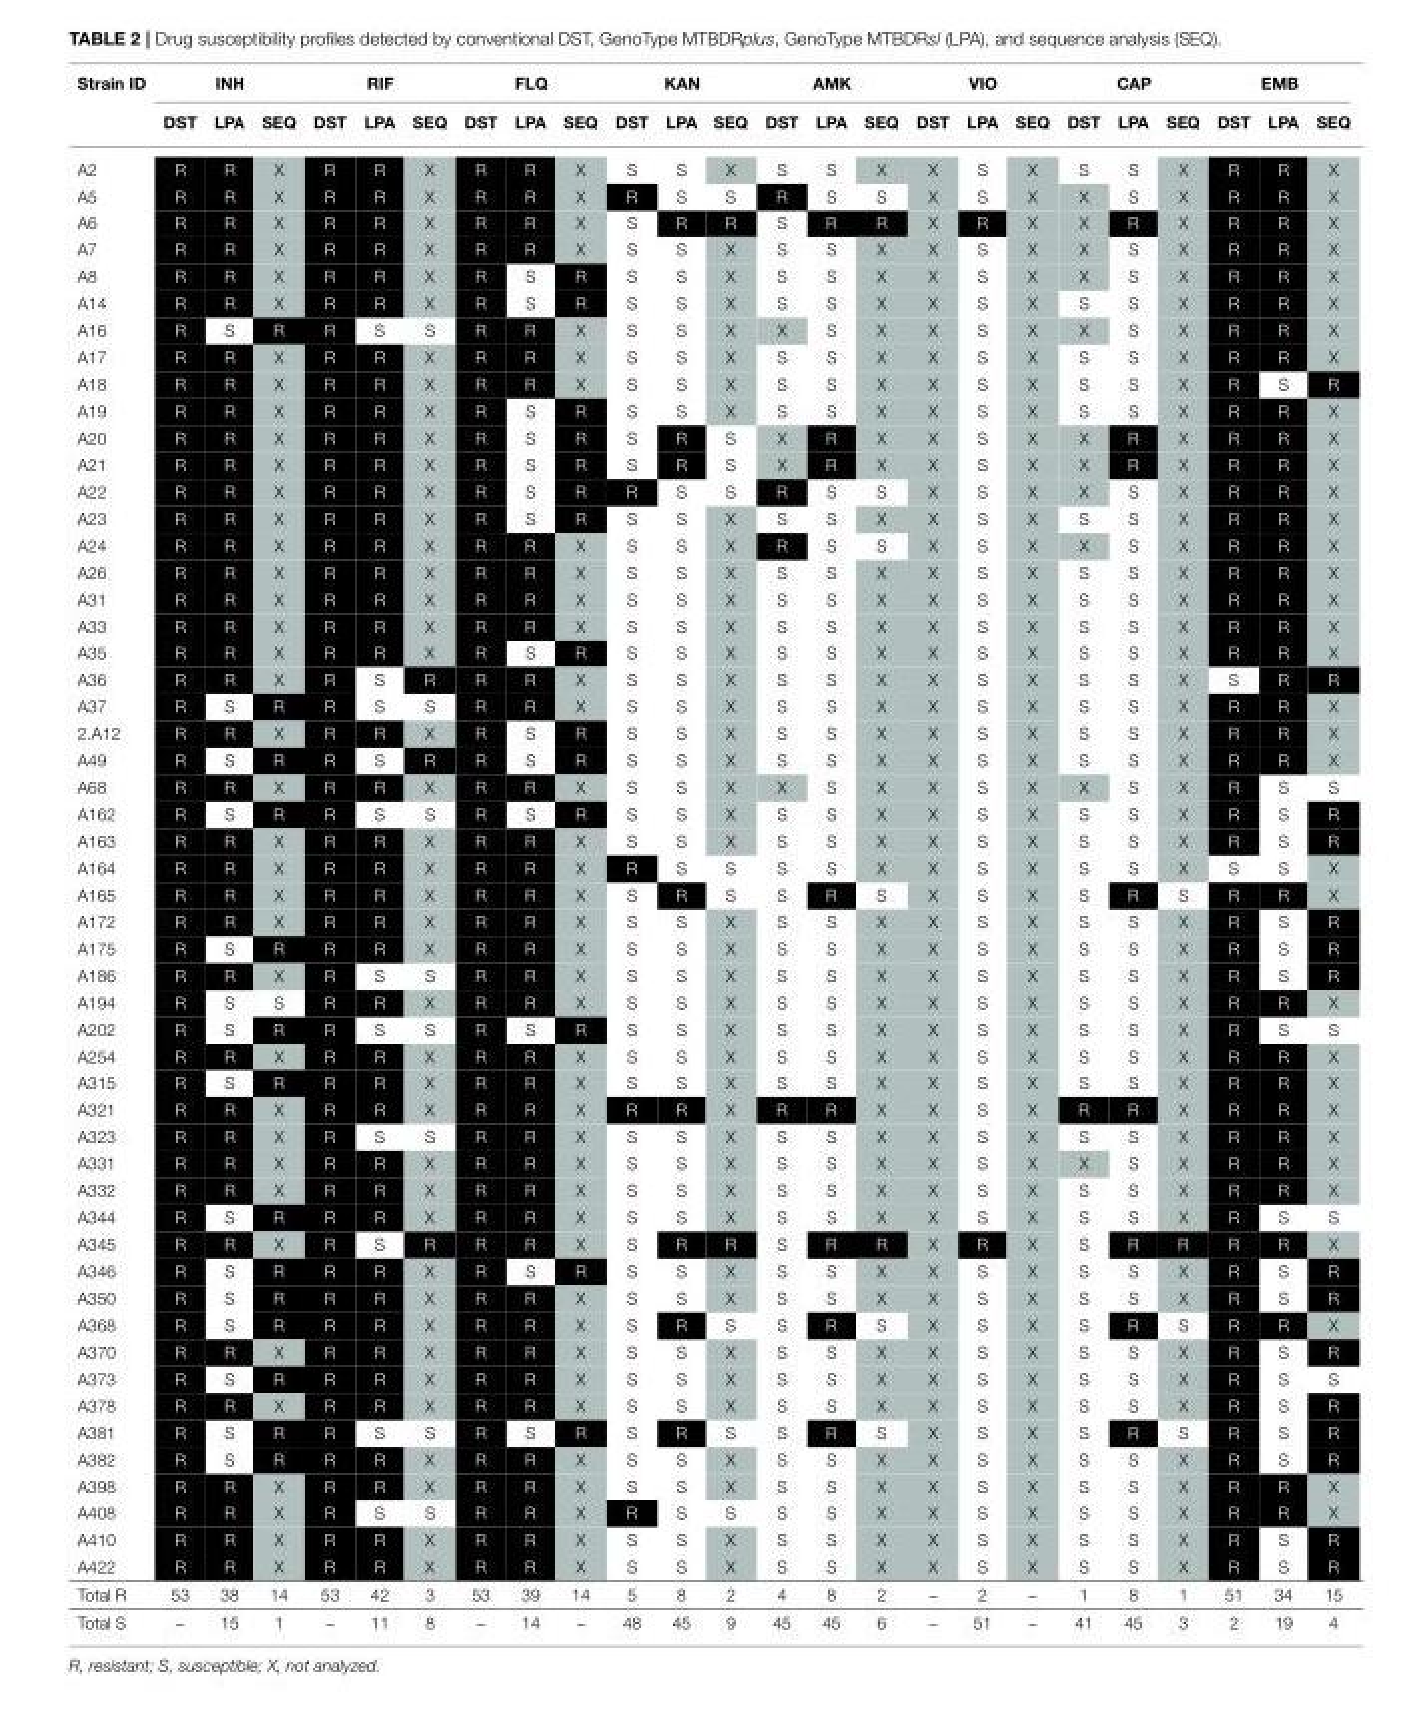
<table><thead><tr><td rowspan="2">Strain ID</td><td colspan="3">INH</td><td colspan="3">RIF</td><td colspan="3">FLQ</td><td colspan="3">KAN</td><td colspan="3">AMK</td><td colspan="3">VIO</td><td colspan="3">CAP</td><td colspan="3">EMB</td></tr><tr><td>DST</td><td>LPA</td><td>SEQ</td><td>DST</td><td>LPA</td><td>SEQ</td><td>DST</td><td>LPA</td><td>SEQ</td><td>DST</td><td>LPA</td><td>SEQ</td><td>DST</td><td>LPA</td><td>SEQ</td><td>DST</td><td>LPA</td><td>SEQ</td><td>DST</td><td>LPA</td><td>SEQ</td><td>DST</td><td>LPA</td><td>SEQ</td></tr></thead><tbody><tr><td>A2</td><td>R</td><td>R</td><td>X</td><td>R</td><td>R</td><td>X</td><td>R</td><td>R</td><td>X</td><td>S</td><td>S</td><td>X</td><td>S</td><td>S</td><td>X</td><td>X</td><td>S</td><td>X</td><td>S</td><td>S</td><td>X</td><td>R</td><td>R</td><td>X</td></tr><tr><td>A5</td><td>R</td><td>R</td><td>X</td><td>R</td><td>R</td><td>X</td><td>R</td><td>R</td><td>X</td><td>R</td><td>S</td><td>S</td><td>R</td><td>S</td><td>S</td><td>X</td><td>S</td><td>X</td><td>X</td><td>S</td><td>X</td><td>R</td><td>R</td><td>X</td></tr><tr><td>A6</td><td>R</td><td>R</td><td>X</td><td>R</td><td>R</td><td>X</td><td>R</td><td>R</td><td>X</td><td>S</td><td>R</td><td>R</td><td>S</td><td>R</td><td>R</td><td>X</td><td>R</td><td>X</td><td>X</td><td>R</td><td>X</td><td>R</td><td>R</td><td>X</td></tr><tr><td>A7</td><td>R</td><td>R</td><td>X</td><td>R</td><td>R</td><td>X</td><td>R</td><td>R</td><td>X</td><td>S</td><td>S</td><td>X</td><td>S</td><td>S</td><td>X</td><td>X</td><td>S</td><td>X</td><td>X</td><td>S</td><td>X</td><td>R</td><td>R</td><td>X</td></tr><tr><td>A8</td><td>R</td><td>R</td><td>X</td><td>R</td><td>R</td><td>X</td><td>R</td><td>S</td><td>R</td><td>S</td><td>S</td><td>X</td><td>S</td><td>S</td><td>X</td><td>X</td><td>S</td><td>X</td><td>X</td><td>S</td><td>X</td><td>R</td><td>R</td><td>X</td></tr><tr><td>A14</td><td>R</td><td>R</td><td>X</td><td>R</td><td>R</td><td>X</td><td>R</td><td>S</td><td>R</td><td>S</td><td>S</td><td>X</td><td>S</td><td>S</td><td>X</td><td>X</td><td>S</td><td>X</td><td>S</td><td>S</td><td>X</td><td>R</td><td>R</td><td>X</td></tr><tr><td>A16</td><td>R</td><td>S</td><td>R</td><td>R</td><td>S</td><td>S</td><td>R</td><td>R</td><td>X</td><td>S</td><td>S</td><td>X</td><td>X</td><td>S</td><td>X</td><td>X</td><td>S</td><td>X</td><td>X</td><td>S</td><td>X</td><td>R</td><td>R</td><td>X</td></tr><tr><td>A17</td><td>R</td><td>R</td><td>X</td><td>R</td><td>R</td><td>X</td><td>R</td><td>R</td><td>X</td><td>S</td><td>S</td><td>X</td><td>S</td><td>S</td><td>X</td><td>X</td><td>S</td><td>X</td><td>S</td><td>S</td><td>X</td><td>R</td><td>R</td><td>X</td></tr><tr><td>A18</td><td>R</td><td>R</td><td>X</td><td>R</td><td>R</td><td>X</td><td>R</td><td>R</td><td>X</td><td>S</td><td>S</td><td>X</td><td>S</td><td>S</td><td>X</td><td>X</td><td>S</td><td>X</td><td>S</td><td>S</td><td>X</td><td>R</td><td>S</td><td>R</td></tr><tr><td>A19</td><td>R</td><td>R</td><td>X</td><td>R</td><td>R</td><td>X</td><td>R</td><td>S</td><td>R</td><td>S</td><td>S</td><td>X</td><td>S</td><td>S</td><td>X</td><td>X</td><td>S</td><td>X</td><td>S</td><td>S</td><td>X</td><td>R</td><td>R</td><td>X</td></tr><tr><td>A20</td><td>R</td><td>R</td><td>X</td><td>R</td><td>R</td><td>X</td><td>R</td><td>S</td><td>R</td><td>S</td><td>R</td><td>S</td><td>X</td><td>R</td><td>X</td><td>X</td><td>S</td><td>X</td><td>X</td><td>R</td><td>X</td><td>R</td><td>R</td><td>X</td></tr><tr><td>A21</td><td>R</td><td>R</td><td>X</td><td>R</td><td>R</td><td>X</td><td>R</td><td>S</td><td>R</td><td>S</td><td>R</td><td>S</td><td>X</td><td>R</td><td>X</td><td>X</td><td>S</td><td>X</td><td>X</td><td>R</td><td>X</td><td>R</td><td>R</td><td>X</td></tr><tr><td>A22</td><td>R</td><td>R</td><td>X</td><td>R</td><td>R</td><td>X</td><td>R</td><td>S</td><td>R</td><td>R</td><td>S</td><td>S</td><td>R</td><td>S</td><td>S</td><td>X</td><td>S</td><td>X</td><td>X</td><td>S</td><td>X</td><td>R</td><td>R</td><td>X</td></tr><tr><td>A23</td><td>R</td><td>R</td><td>X</td><td>R</td><td>R</td><td>X</td><td>R</td><td>S</td><td>R</td><td>S</td><td>S</td><td>X</td><td>S</td><td>S</td><td>X</td><td>X</td><td>S</td><td>X</td><td>S</td><td>S</td><td>X</td><td>R</td><td>R</td><td>X</td></tr><tr><td>A24</td><td>R</td><td>R</td><td>X</td><td>R</td><td>R</td><td>X</td><td>R</td><td>R</td><td>X</td><td>S</td><td>S</td><td>X</td><td>R</td><td>S</td><td>S</td><td>X</td><td>S</td><td>X</td><td>X</td><td>S</td><td>X</td><td>R</td><td>R</td><td>X</td></tr><tr><td>A26</td><td>R</td><td>R</td><td>X</td><td>R</td><td>R</td><td>X</td><td>R</td><td>R</td><td>X</td><td>S</td><td>S</td><td>X</td><td>S</td><td>S</td><td>X</td><td>X</td><td>S</td><td>X</td><td>S</td><td>S</td><td>X</td><td>R</td><td>R</td><td>X</td></tr><tr><td>A31</td><td>R</td><td>R</td><td>X</td><td>R</td><td>R</td><td>X</td><td>R</td><td>R</td><td>X</td><td>S</td><td>S</td><td>X</td><td>S</td><td>S</td><td>X</td><td>X</td><td>S</td><td>X</td><td>S</td><td>S</td><td>X</td><td>R</td><td>R</td><td>X</td></tr><tr><td>A33</td><td>R</td><td>R</td><td>X</td><td>R</td><td>R</td><td>X</td><td>R</td><td>R</td><td>X</td><td>S</td><td>S</td><td>X</td><td>S</td><td>S</td><td>X</td><td>X</td><td>S</td><td>X</td><td>S</td><td>S</td><td>X</td><td>R</td><td>R</td><td>X</td></tr><tr><td>A35</td><td>R</td><td>R</td><td>X</td><td>R</td><td>R</td><td>X</td><td>R</td><td>S</td><td>R</td><td>S</td><td>S</td><td>X</td><td>S</td><td>S</td><td>X</td><td>X</td><td>S</td><td>X</td><td>S</td><td>S</td><td>X</td><td>R</td><td>R</td><td>X</td></tr><tr><td>A36</td><td>R</td><td>R</td><td>X</td><td>R</td><td>S</td><td>R</td><td>R</td><td>R</td><td>X</td><td>S</td><td>S</td><td>X</td><td>S</td><td>S</td><td>X</td><td>X</td><td>S</td><td>X</td><td>S</td><td>S</td><td>X</td><td>S</td><td>R</td><td>R</td></tr><tr><td>A37</td><td>R</td><td>S</td><td>R</td><td>R</td><td>S</td><td>S</td><td>R</td><td>R</td><td>X</td><td>S</td><td>S</td><td>X</td><td>S</td><td>S</td><td>X</td><td>X</td><td>S</td><td>X</td><td>S</td><td>S</td><td>X</td><td>R</td><td>R</td><td>X</td></tr><tr><td>2.A12</td><td>R</td><td>R</td><td>X</td><td>R</td><td>R</td><td>X</td><td>R</td><td>S</td><td>R</td><td>S</td><td>S</td><td>X</td><td>S</td><td>S</td><td>X</td><td>X</td><td>S</td><td>X</td><td>S</td><td>S</td><td>X</td><td>R</td><td>R</td><td>X</td></tr><tr><td>A49</td><td>R</td><td>S</td><td>R</td><td>R</td><td>S</td><td>R</td><td>R</td><td>S</td><td>R</td><td>S</td><td>S</td><td>X</td><td>S</td><td>S</td><td>X</td><td>X</td><td>S</td><td>X</td><td>S</td><td>S</td><td>X</td><td>R</td><td>R</td><td>X</td></tr><tr><td>A68</td><td>R</td><td>R</td><td>X</td><td>R</td><td>R</td><td>X</td><td>R</td><td>R</td><td>X</td><td>S</td><td>S</td><td>X</td><td>X</td><td>S</td><td>X</td><td>X</td><td>S</td><td>X</td><td>X</td><td>S</td><td>X</td><td>R</td><td>S</td><td>S</td></tr><tr><td>A162</td><td>R</td><td>S</td><td>R</td><td>R</td><td>S</td><td>S</td><td>R</td><td>S</td><td>R</td><td>S</td><td>S</td><td>X</td><td>S</td><td>S</td><td>X</td><td>X</td><td>S</td><td>X</td><td>S</td><td>S</td><td>X</td><td>R</td><td>S</td><td>R</td></tr><tr><td>A163</td><td>R</td><td>R</td><td>X</td><td>R</td><td>R</td><td>X</td><td>R</td><td>R</td><td>X</td><td>S</td><td>S</td><td>X</td><td>S</td><td>S</td><td>X</td><td>X</td><td>S</td><td>X</td><td>S</td><td>S</td><td>X</td><td>R</td><td>S</td><td>R</td></tr><tr><td>A164</td><td>R</td><td>R</td><td>X</td><td>R</td><td>R</td><td>X</td><td>R</td><td>R</td><td>X</td><td>R</td><td>S</td><td>S</td><td>S</td><td>S</td><td>X</td><td>X</td><td>S</td><td>X</td><td>S</td><td>S</td><td>X</td><td>S</td><td>S</td><td>X</td></tr><tr><td>A165</td><td>R</td><td>R</td><td>X</td><td>R</td><td>R</td><td>X</td><td>R</td><td>R</td><td>X</td><td>S</td><td>R</td><td>S</td><td>S</td><td>R</td><td>S</td><td>X</td><td>S</td><td>X</td><td>S</td><td>R</td><td>S</td><td>R</td><td>R</td><td>X</td></tr><tr><td>A172</td><td>R</td><td>R</td><td>X</td><td>R</td><td>R</td><td>X</td><td>R</td><td>R</td><td>X</td><td>S</td><td>S</td><td>X</td><td>S</td><td>S</td><td>X</td><td>X</td><td>S</td><td>X</td><td>S</td><td>S</td><td>X</td><td>R</td><td>S</td><td>R</td></tr><tr><td>A175</td><td>R</td><td>S</td><td>R</td><td>R</td><td>R</td><td>X</td><td>R</td><td>R</td><td>X</td><td>S</td><td>S</td><td>X</td><td>S</td><td>S</td><td>X</td><td>X</td><td>S</td><td>X</td><td>S</td><td>S</td><td>X</td><td>R</td><td>S</td><td>R</td></tr><tr><td>A186</td><td>R</td><td>R</td><td>X</td><td>R</td><td>S</td><td>S</td><td>R</td><td>R</td><td>X</td><td>S</td><td>S</td><td>X</td><td>S</td><td>S</td><td>X</td><td>X</td><td>S</td><td>X</td><td>S</td><td>S</td><td>X</td><td>R</td><td>S</td><td>R</td></tr><tr><td>A194</td><td>R</td><td>S</td><td>S</td><td>R</td><td>R</td><td>X</td><td>R</td><td>R</td><td>X</td><td>S</td><td>S</td><td>X</td><td>S</td><td>S</td><td>X</td><td>X</td><td>S</td><td>X</td><td>S</td><td>S</td><td>X</td><td>R</td><td>R</td><td>X</td></tr><tr><td>A202</td><td>R</td><td>S</td><td>R</td><td>R</td><td>S</td><td>S</td><td>R</td><td>S</td><td>R</td><td>S</td><td>S</td><td>X</td><td>S</td><td>S</td><td>X</td><td>X</td><td>S</td><td>X</td><td>S</td><td>S</td><td>X</td><td>R</td><td>S</td><td>S</td></tr><tr><td>A254</td><td>R</td><td>R</td><td>X</td><td>R</td><td>R</td><td>X</td><td>R</td><td>R</td><td>X</td><td>S</td><td>S</td><td>X</td><td>S</td><td>S</td><td>X</td><td>X</td><td>S</td><td>X</td><td>S</td><td>S</td><td>X</td><td>R</td><td>R</td><td>X</td></tr><tr><td>A315</td><td>R</td><td>S</td><td>R</td><td>R</td><td>R</td><td>X</td><td>R</td><td>R</td><td>X</td><td>S</td><td>S</td><td>X</td><td>S</td><td>S</td><td>X</td><td>X</td><td>S</td><td>X</td><td>S</td><td>S</td><td>X</td><td>R</td><td>R</td><td>X</td></tr><tr><td>A321</td><td>R</td><td>R</td><td>X</td><td>R</td><td>R</td><td>X</td><td>R</td><td>R</td><td>X</td><td>R</td><td>R</td><td>X</td><td>R</td><td>R</td><td>X</td><td>X</td><td>S</td><td>X</td><td>R</td><td>R</td><td>X</td><td>R</td><td>R</td><td>X</td></tr><tr><td>A323</td><td>R</td><td>R</td><td>X</td><td>R</td><td>S</td><td>S</td><td>R</td><td>R</td><td>X</td><td>S</td><td>S</td><td>X</td><td>S</td><td>S</td><td>X</td><td>X</td><td>S</td><td>X</td><td>S</td><td>S</td><td>X</td><td>R</td><td>R</td><td>X</td></tr><tr><td>A331</td><td>R</td><td>R</td><td>X</td><td>R</td><td>R</td><td>X</td><td>R</td><td>R</td><td>X</td><td>S</td><td>S</td><td>X</td><td>S</td><td>S</td><td>X</td><td>X</td><td>S</td><td>X</td><td>X</td><td>S</td><td>X</td><td>R</td><td>R</td><td>X</td></tr><tr><td>A332</td><td>R</td><td>R</td><td>X</td><td>R</td><td>R</td><td>X</td><td>R</td><td>R</td><td>X</td><td>S</td><td>S</td><td>X</td><td>S</td><td>S</td><td>X</td><td>X</td><td>S</td><td>X</td><td>S</td><td>S</td><td>X</td><td>R</td><td>R</td><td>X</td></tr><tr><td>A344</td><td>R</td><td>S</td><td>R</td><td>R</td><td>R</td><td>X</td><td>R</td><td>R</td><td>X</td><td>S</td><td>S</td><td>X</td><td>S</td><td>S</td><td>X</td><td>X</td><td>S</td><td>X</td><td>S</td><td>S</td><td>X</td><td>R</td><td>S</td><td>S</td></tr><tr><td>A345</td><td>R</td><td>R</td><td>X</td><td>R</td><td>S</td><td>R</td><td>R</td><td>R</td><td>X</td><td>S</td><td>R</td><td>R</td><td>S</td><td>R</td><td>R</td><td>X</td><td>R</td><td>X</td><td>S</td><td>R</td><td>R</td><td>R</td><td>R</td><td>X</td></tr><tr><td>A346</td><td>R</td><td>S</td><td>R</td><td>R</td><td>R</td><td>X</td><td>R</td><td>S</td><td>R</td><td>S</td><td>S</td><td>X</td><td>S</td><td>S</td><td>X</td><td>X</td><td>S</td><td>X</td><td>S</td><td>S</td><td>X</td><td>R</td><td>S</td><td>R</td></tr><tr><td>A350</td><td>R</td><td>S</td><td>R</td><td>R</td><td>R</td><td>X</td><td>R</td><td>R</td><td>X</td><td>S</td><td>S</td><td>X</td><td>S</td><td>S</td><td>X</td><td>X</td><td>S</td><td>X</td><td>S</td><td>S</td><td>X</td><td>R</td><td>S</td><td>R</td></tr><tr><td>A368</td><td>R</td><td>S</td><td>R</td><td>R</td><td>R</td><td>X</td><td>R</td><td>R</td><td>X</td><td>S</td><td>R</td><td>S</td><td>S</td><td>R</td><td>S</td><td>X</td><td>S</td><td>X</td><td>S</td><td>R</td><td>S</td><td>R</td><td>R</td><td>X</td></tr><tr><td>A370</td><td>R</td><td>R</td><td>X</td><td>R</td><td>R</td><td>X</td><td>R</td><td>R</td><td>X</td><td>S</td><td>S</td><td>X</td><td>S</td><td>S</td><td>X</td><td>X</td><td>S</td><td>X</td><td>S</td><td>S</td><td>X</td><td>R</td><td>S</td><td>R</td></tr><tr><td>A373</td><td>R</td><td>S</td><td>R</td><td>R</td><td>R</td><td>X</td><td>R</td><td>R</td><td>X</td><td>S</td><td>S</td><td>X</td><td>S</td><td>S</td><td>X</td><td>X</td><td>S</td><td>X</td><td>S</td><td>S</td><td>X</td><td>R</td><td>S</td><td>S</td></tr><tr><td>A378</td><td>R</td><td>R</td><td>X</td><td>R</td><td>R</td><td>X</td><td>R</td><td>R</td><td>X</td><td>S</td><td>S</td><td>X</td><td>S</td><td>S</td><td>X</td><td>X</td><td>S</td><td>X</td><td>S</td><td>S</td><td>X</td><td>R</td><td>S</td><td>R</td></tr><tr><td>A381</td><td>R</td><td>S</td><td>R</td><td>R</td><td>S</td><td>S</td><td>R</td><td>S</td><td>R</td><td>S</td><td>R</td><td>S</td><td>S</td><td>R</td><td>S</td><td>X</td><td>S</td><td>X</td><td>S</td><td>R</td><td>S</td><td>R</td><td>S</td><td>R</td></tr><tr><td>A382</td><td>R</td><td>S</td><td>R</td><td>R</td><td>R</td><td>X</td><td>R</td><td>R</td><td>X</td><td>S</td><td>S</td><td>X</td><td>S</td><td>S</td><td>X</td><td>X</td><td>S</td><td>X</td><td>S</td><td>S</td><td>X</td><td>R</td><td>S</td><td>R</td></tr><tr><td>A398</td><td>R</td><td>R</td><td>X</td><td>R</td><td>R</td><td>X</td><td>R</td><td>R</td><td>X</td><td>S</td><td>S</td><td>X</td><td>S</td><td>S</td><td>X</td><td>X</td><td>S</td><td>X</td><td>S</td><td>S</td><td>X</td><td>R</td><td>R</td><td>X</td></tr><tr><td>A408</td><td>R</td><td>R</td><td>X</td><td>R</td><td>S</td><td>S</td><td>R</td><td>R</td><td>X</td><td>R</td><td>S</td><td>S</td><td>S</td><td>S</td><td>X</td><td>X</td><td>S</td><td>X</td><td>S</td><td>S</td><td>X</td><td>R</td><td>R</td><td>X</td></tr><tr><td>A410</td><td>R</td><td>R</td><td>X</td><td>R</td><td>R</td><td>X</td><td>R</td><td>R</td><td>X</td><td>S</td><td>S</td><td>X</td><td>S</td><td>S</td><td>X</td><td>X</td><td>S</td><td>X</td><td>S</td><td>S</td><td>X</td><td>R</td><td>S</td><td>R</td></tr><tr><td>A422</td><td>R</td><td>R</td><td>X</td><td>R</td><td>R</td><td>X</td><td>R</td><td>R</td><td>X</td><td>S</td><td>S</td><td>X</td><td>S</td><td>S</td><td>X</td><td>X</td><td>S</td><td>X</td><td>S</td><td>S</td><td>X</td><td>R</td><td>S</td><td>R</td></tr><tr><td>Total R</td><td>53</td><td>38</td><td>14</td><td>53</td><td>42</td><td>3</td><td>53</td><td>39</td><td>14</td><td>5</td><td>8</td><td>2</td><td>4</td><td>8</td><td>2</td><td>–</td><td>2</td><td>–</td><td>1</td><td>8</td><td>1</td><td>51</td><td>34</td><td>15</td></tr><tr><td>Total S</td><td>–</td><td>15</td><td>1</td><td>–</td><td>11</td><td>8</td><td>–</td><td>14</td><td>–</td><td>48</td><td>45</td><td>9</td><td>45</td><td>45</td><td>6</td><td>–</td><td>51</td><td>–</td><td>41</td><td>45</td><td>3</td><td>2</td><td>19</td><td>4</td></tr></tbody></table>